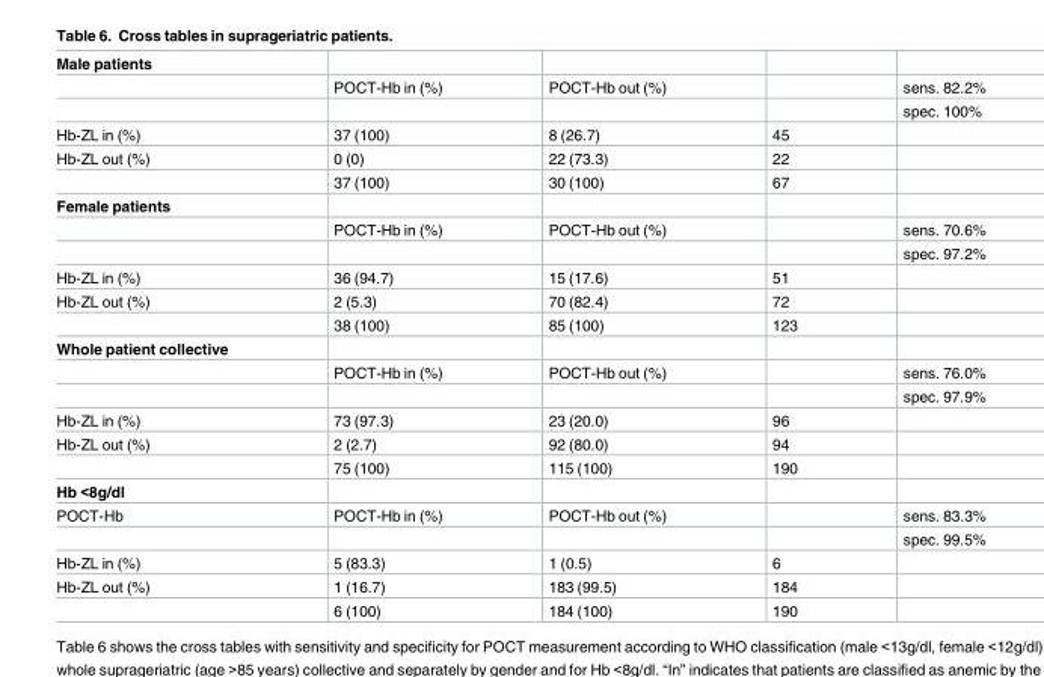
<table><tbody><tr><td colspan="5">Male patients</td></tr><tr><td></td><td>POCT-Hb in (%)</td><td>POCT-Hb out (%)</td><td></td><td>sens. 82.2%</td></tr><tr><td></td><td></td><td></td><td></td><td>spec. 100%</td></tr><tr><td>Hb-ZL in (%)</td><td>37 (100)</td><td>8 (26.7)</td><td>45</td><td></td></tr><tr><td rowspan="2">Hb-ZL out (%)</td><td>0 (0)</td><td>22 (73.3)</td><td>22</td><td></td></tr><tr><td>37 (100)</td><td>30 (100)</td><td>67</td><td></td></tr><tr><td colspan="5">Female patients</td></tr><tr><td></td><td>POCT-Hb in (%)</td><td>POCT-Hb out (%)</td><td></td><td>sens. 70.6%</td></tr><tr><td></td><td></td><td></td><td></td><td>spec. 97.2%</td></tr><tr><td>Hb-ZL in (%)</td><td>36 (94.7)</td><td>15 (17.6)</td><td>51</td><td></td></tr><tr><td rowspan="2">Hb-ZL out (%)</td><td>2 (5.3)</td><td>70 (82.4)</td><td>72</td><td></td></tr><tr><td>38 (100)</td><td>85 (100)</td><td>123</td><td></td></tr><tr><td colspan="5">Whole patient collective</td></tr><tr><td></td><td>POCT-Hb in (%)</td><td>POCT-Hb out (%)</td><td></td><td>sens. 76.0%</td></tr><tr><td></td><td></td><td></td><td></td><td>spec. 97.9%</td></tr><tr><td>Hb-ZL in (%)</td><td>73 (97.3)</td><td>23 (20.0)</td><td>96</td><td></td></tr><tr><td rowspan="2">Hb-ZL out (%)</td><td>2 (2.7)</td><td>92 (80.0)</td><td>94</td><td></td></tr><tr><td>75 (100)</td><td>115 (100)</td><td>190</td><td></td></tr><tr><td colspan="5">Hb &lt;8g/dl</td></tr><tr><td rowspan="2">POCT-Hb</td><td>POCT-Hb in (%)</td><td>POCT-Hb out (%)</td><td></td><td>sens. 83.3%</td></tr><tr><td></td><td></td><td></td><td>spec. 99.5%</td></tr><tr><td>Hb-ZL in (%)</td><td>5 (83.3)</td><td>1 (0.5)</td><td>6</td><td></td></tr><tr><td rowspan="2">Hb-ZL out (%)</td><td>1 (16.7)</td><td>183 (99.5)</td><td>184</td><td></td></tr><tr><td>6 (100)</td><td>184 (100)</td><td>190</td><td></td></tr></tbody></table>